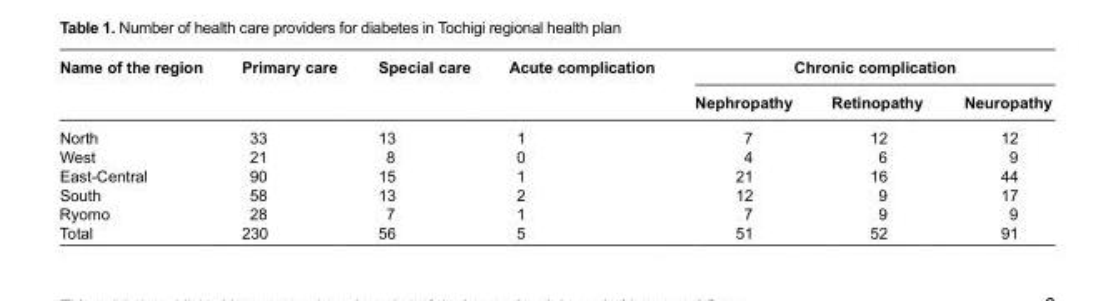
<table><thead><tr><td rowspan="2">Name of the region</td><td rowspan="2">Primary care</td><td rowspan="2">Special care</td><td rowspan="2">Acute complication</td><td colspan="3">Chronic complication</td></tr><tr><td>Nephropathy</td><td>Retinopathy</td><td>Neuropathy</td></tr></thead><tbody><tr><td>North</td><td>33</td><td>13</td><td>1</td><td>7</td><td>12</td><td>12</td></tr><tr><td>West</td><td>21</td><td>8</td><td>0</td><td>4</td><td>6</td><td>9</td></tr><tr><td>East-Central</td><td>90</td><td>15</td><td>1</td><td>21</td><td>16</td><td>44</td></tr><tr><td>South</td><td>58</td><td>13</td><td>2</td><td>12</td><td>9</td><td>17</td></tr><tr><td>Ryomo</td><td>28</td><td>7</td><td>1</td><td>7</td><td>9</td><td>9</td></tr><tr><td>Total</td><td>230</td><td>56</td><td>5</td><td>51</td><td>52</td><td>91</td></tr></tbody></table>